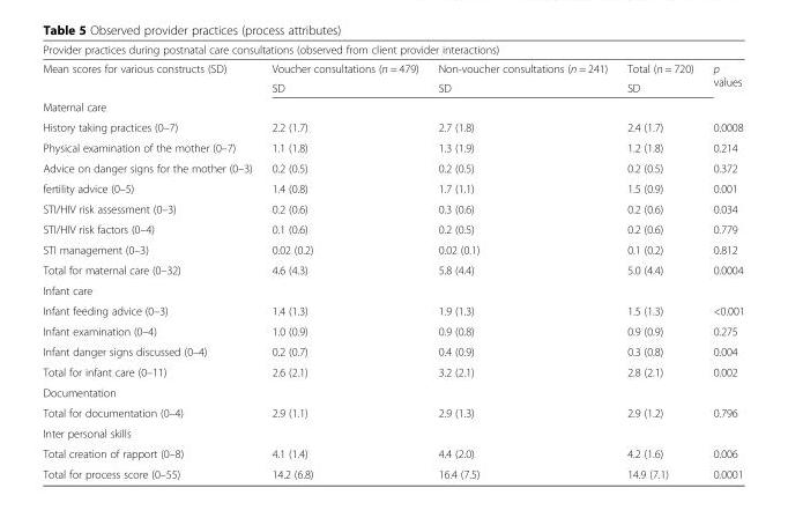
<table><thead><tr><td colspan="5">Provider practices during postnatal care consultations (observed from client provider interactions)</td></tr><tr><td rowspan="2">Mean scores for various constructs (SD)</td><td rowspan="2">Voucher consultations (n = 479) SD</td><td rowspan="2">Non-voucher consultations (n = 241) SD</td><td rowspan="2">Total (n = 720) SD</td><td rowspan="2">p values</td></tr><tr></tr></thead><tbody><tr><td colspan="5">Maternal care</td></tr><tr><td>History taking practices (0–7)</td><td>2.2 (1.7)</td><td>2.7 (1.8)</td><td>2.4 (1.7)</td><td>0.0008</td></tr><tr><td>Physical examination of the mother (0–7)</td><td>1.1 (1.8)</td><td>1.3 (1.9)</td><td>1.2 (1.8)</td><td>0.214</td></tr><tr><td>Advice on danger signs for the mother (0–3)</td><td>0.2 (0.5)</td><td>0.2 (0.5)</td><td>0.2 (0.5)</td><td>0.372</td></tr><tr><td>fertility advice (0–5)</td><td>1.4 (0.8)</td><td>1.7 (1.1)</td><td>1.5 (0.9)</td><td>0.001</td></tr><tr><td>STI/HIV risk assessment (0–3)</td><td>0.2 (0.6)</td><td>0.3 (0.6)</td><td>0.2 (0.6)</td><td>0.034</td></tr><tr><td>STI/HIV risk factors (0–4)</td><td>0.1 (0.6)</td><td>0.2 (0.5)</td><td>0.2 (0.6)</td><td>0.779</td></tr><tr><td>STI management (0–3)</td><td>0.02 (0.2)</td><td>0.02 (0.1)</td><td>0.1 (0.2)</td><td>0.812</td></tr><tr><td>Total for maternal care (0–32)</td><td>4.6 (4.3)</td><td>5.8 (4.4)</td><td>5.0 (4.4)</td><td>0.0004</td></tr><tr><td colspan="5">Infant care</td></tr><tr><td>Infant feeding advice (0–3)</td><td>1.4 (1.3)</td><td>1.9 (1.3)</td><td>1.5 (1.3)</td><td>&lt;0.001</td></tr><tr><td>Infant examination (0–4)</td><td>1.0 (0.9)</td><td>0.9 (0.8)</td><td>0.9 (0.9)</td><td>0.275</td></tr><tr><td>Infant danger signs discussed (0–4)</td><td>0.2 (0.7)</td><td>0.4 (0.9)</td><td>0.3 (0.8)</td><td>0.004</td></tr><tr><td>Total for infant care (0–11)</td><td>2.6 (2.1)</td><td>3.2 (2.1)</td><td>2.8 (2.1)</td><td>0.002</td></tr><tr><td colspan="5">Documentation</td></tr><tr><td>Total for documentation (0–4)</td><td>2.9 (1.1)</td><td>2.9 (1.3)</td><td>2.9 (1.2)</td><td>0.796</td></tr><tr><td colspan="5">Inter personal skills</td></tr><tr><td>Total creation of rapport (0–8)</td><td>4.1 (1.4)</td><td>4.4 (2.0)</td><td>4.2 (1.6)</td><td>0.006</td></tr><tr><td>Total for process score (0–55)</td><td>14.2 (6.8)</td><td>16.4 (7.5)</td><td>14.9 (7.1)</td><td>0.0001</td></tr></tbody></table>